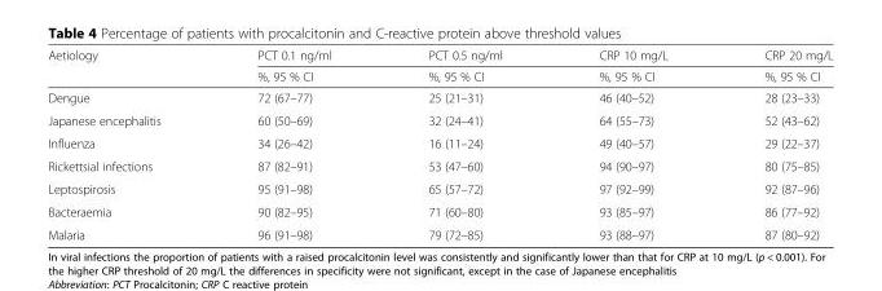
<table><thead><tr><td rowspan="2">Aetiology</td><td rowspan="2">PCT 0.1 ng/ml %, 95 % CI</td><td rowspan="2">PCT 0.5 ng/ml %, 95 % CI</td><td rowspan="2">CRP 10 mg/L %, 95 % CI</td><td rowspan="2">CRP 20 mg/L %, 95 % CI</td></tr><tr></tr></thead><tbody><tr><td>Dengue</td><td>72 (67–77)</td><td>25 (21–31)</td><td>46 (40–52)</td><td>28 (23–33)</td></tr><tr><td>Japanese encephalitis</td><td>60 (50–69)</td><td>32 (24–41)</td><td>64 (55–73)</td><td>52 (43–62)</td></tr><tr><td>Influenza</td><td>34 (26–42)</td><td>16 (11–24)</td><td>49 (40–57)</td><td>29 (22–37)</td></tr><tr><td>Rickettsial infections</td><td>87 (82–91)</td><td>53 (47–60)</td><td>94 (90–97)</td><td>80 (75–85)</td></tr><tr><td>Leptospirosis</td><td>95 (91–98)</td><td>65 (57–72)</td><td>97 (92–99)</td><td>92 (87–96)</td></tr><tr><td>Bacteraemia</td><td>90 (82–95)</td><td>71 (60–80)</td><td>93 (85–97)</td><td>86 (77–92)</td></tr><tr><td>Malaria</td><td>96 (91–98)</td><td>79 (72–85)</td><td>93 (88–97)</td><td>87 (80–92)</td></tr></tbody></table>